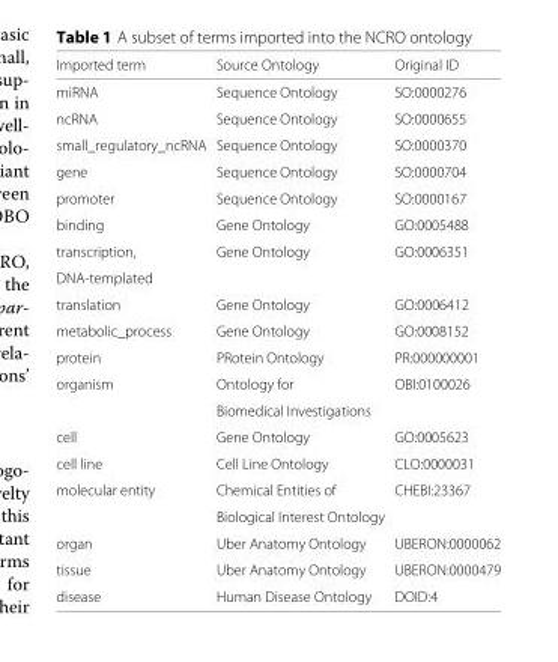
<table><thead><tr><td>Imported term</td><td>Source Ontology</td><td>Original ID</td></tr></thead><tbody><tr><td>miRNA</td><td>Sequence Ontology</td><td>SO:0000276</td></tr><tr><td>ncRNA</td><td>Sequence Ontology</td><td>SO:0000655</td></tr><tr><td>small_regulatory_ncRNA</td><td>Sequence Ontology</td><td>SO:0000370</td></tr><tr><td>gene</td><td>Sequence Ontology</td><td>SO:0000704</td></tr><tr><td>promoter</td><td>Sequence Ontology</td><td>SO:0000167</td></tr><tr><td>binding</td><td>Gene Ontology</td><td>GO:0005488</td></tr><tr><td>transcription,</td><td>Gene Ontology</td><td>GO:0006351</td></tr><tr><td colspan="3">DNA-templated</td></tr><tr><td>translation</td><td>Gene Ontology</td><td>GO:0006412</td></tr><tr><td>metabolic_process</td><td>Gene Ontology</td><td>GO:0008152</td></tr><tr><td>protein</td><td>PRotein Ontology</td><td>PR:000000001</td></tr><tr><td rowspan="2">organism</td><td>Ontology for</td><td>OBI:0100026</td></tr><tr><td>Biomedical Investigations</td><td></td></tr><tr><td>cell</td><td>Gene Ontology</td><td>GO:0005623</td></tr><tr><td>cell line</td><td>Cell Line Ontology</td><td>CLO:0000031</td></tr><tr><td rowspan="2">molecular entity</td><td>Chemical Entities of</td><td>CHEBI:23367</td></tr><tr><td>Biological Interest Ontology</td><td></td></tr><tr><td>organ</td><td>Uber Anatomy Ontology</td><td>UBERON:0000062</td></tr><tr><td>tissue</td><td>Uber Anatomy Ontology</td><td>UBERON:0000479</td></tr><tr><td>disease</td><td>Human Disease Ontology</td><td>DOID:4</td></tr></tbody></table>